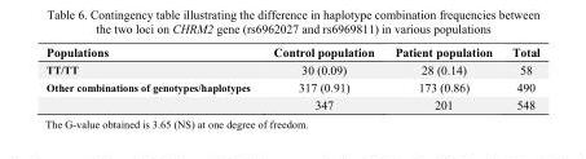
<table><thead><tr><td>Populations</td><td>Control population</td><td>Patient population</td><td>Total</td></tr></thead><tbody><tr><td>TT/TT</td><td>30 (0.09)</td><td>28 (0.14)</td><td>58</td></tr><tr><td rowspan="2">Other combinations of genotypes/haplotypes</td><td>317 (0.91)</td><td>173 (0.86)</td><td>490</td></tr><tr><td>347</td><td>201</td><td>548</td></tr></tbody></table>